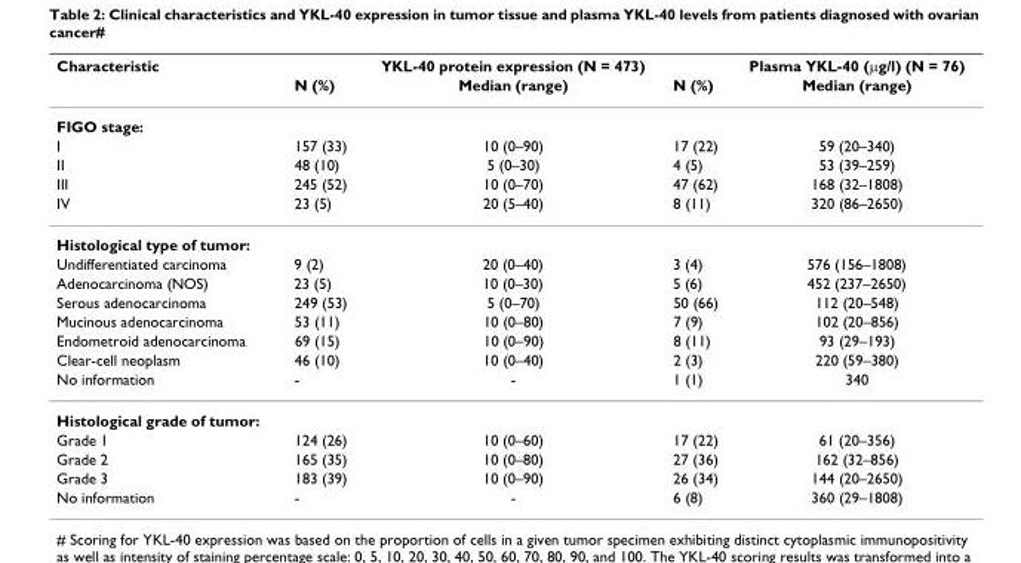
<table><thead><tr><td rowspan="2">Characteristic</td><td rowspan="2">N (%)</td><td rowspan="2">YKL-40 protein expression (N = 473) Median (range)</td><td rowspan="2">N (%)</td><td rowspan="2">Plasma YKL-40 (μg/l) (N = 76) Median (range)</td></tr><tr></tr></thead><tbody><tr><td colspan="5">FIGO stage:</td></tr><tr><td>I</td><td>157 (33)</td><td>10 (0–90)</td><td>17 (22)</td><td>59 (20–340)</td></tr><tr><td>II</td><td>48 (10)</td><td>5 (0–30)</td><td>4 (5)</td><td>53 (39–259)</td></tr><tr><td>III</td><td>245 (52)</td><td>10 (0–70)</td><td>47 (62)</td><td>168 (32–1808)</td></tr><tr><td>IV</td><td>23 (5)</td><td>20 (5–40)</td><td>8 (11)</td><td>320 (86–2650)</td></tr><tr><td colspan="5">Histological type of tumor:</td></tr><tr><td>Undifferentiated carcinoma</td><td>9 (2)</td><td>20 (0–40)</td><td>3 (4)</td><td>576 (156–1808)</td></tr><tr><td>Adenocarcinoma (NOS)</td><td>23 (5)</td><td>10 (0–30)</td><td>5 (6)</td><td>452 (237–2650)</td></tr><tr><td>Serous adenocarcinoma</td><td>249 (53)</td><td>5 (0–70)</td><td>50 (66)</td><td>112 (20–548)</td></tr><tr><td>Mucinous adenocarcinoma</td><td>53 (11)</td><td>10 (0–80)</td><td>7 (9)</td><td>102 (20–856)</td></tr><tr><td>Endometroid adenocarcinoma</td><td>69 (15)</td><td>10 (0–90)</td><td>8 (11)</td><td>93 (29–193)</td></tr><tr><td>Clear-cell neoplasm</td><td>46 (10)</td><td>10 (0–40)</td><td>2 (3)</td><td>220 (59–380)</td></tr><tr><td>No information</td><td>-</td><td>-</td><td>1 (1)</td><td>340</td></tr><tr><td colspan="5">Histological grade of tumor:</td></tr><tr><td>Grade 1</td><td>124 (26)</td><td>10 (0–60)</td><td>17 (22)</td><td>61 (20–356)</td></tr><tr><td>Grade 2</td><td>165 (35)</td><td>10 (0–80)</td><td>27 (36)</td><td>162 (32–856)</td></tr><tr><td>Grade 3</td><td>183 (39)</td><td>10 (0–90)</td><td>26 (34)</td><td>144 (20–2650)</td></tr><tr><td>No information</td><td>-</td><td>-</td><td>6 (8)</td><td>360 (29–1808)</td></tr></tbody></table>